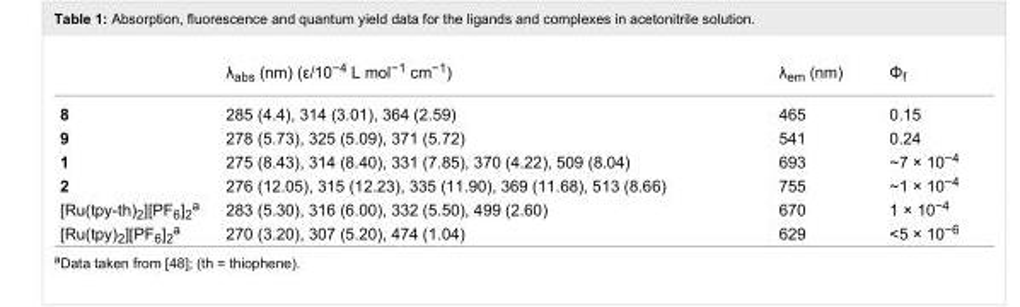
<table><thead><tr><td></td><td>λ<sub>abs</sub> (nm) (ε/10<sup>−4</sup> L mol<sup>−1</sup> cm<sup>−1</sup>)</td><td>λ<sub>em</sub> (nm)</td><td>Φ<sub>f</sub></td></tr></thead><tbody><tr><td>8</td><td>285 (4.4), 314 (3.01), 364 (2.59)</td><td>465</td><td>0.15</td></tr><tr><td>9</td><td>278 (5.73), 325 (5.09), 371 (5.72)</td><td>541</td><td>0.24</td></tr><tr><td>1</td><td>275 (8.43), 314 (8.40), 331 (7.85), 370 (4.22), 509 (8.04)</td><td>693</td><td>~7 × 10<sup>−4</sup></td></tr><tr><td>2</td><td>276 (12.05), 315 (12.23), 335 (11.90), 369 (11.68), 513 (8.66)</td><td>755</td><td>~1 × 10<sup>−4</sup></td></tr><tr><td>[Ru(tpy-th)<sub>2</sub>][PF<sub>6</sub>]<sub>2</sub><sup>a</sup></td><td>283 (5.30), 316 (6.00), 332 (5.50), 499 (2.60)</td><td>670</td><td>1 × 10<sup>−4</sup></td></tr><tr><td>[Ru(tpy)<sub>2</sub>][PF<sub>6</sub>]<sub>2</sub><sup>a</sup></td><td>270 (3.20), 307 (5.20), 474 (1.04)</td><td>629</td><td>&lt;5 × 10<sup>−6</sup></td></tr></tbody></table>